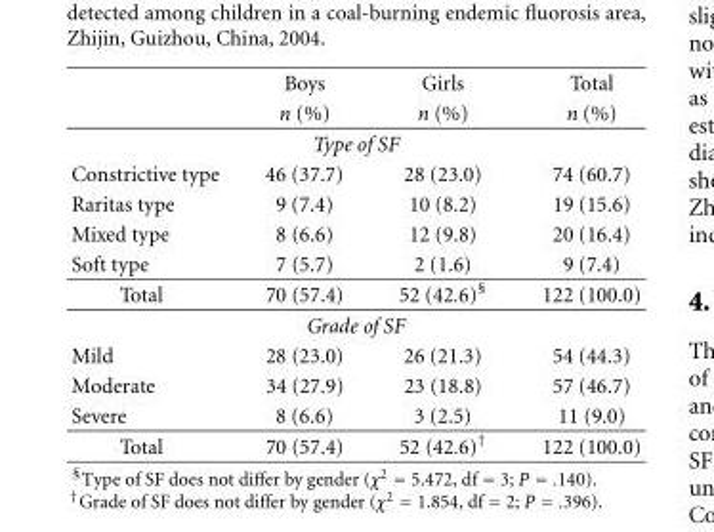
<table><thead><tr><td rowspan="2"></td><td rowspan="2">Boys n (%)</td><td rowspan="2">Girls n (%)</td><td rowspan="2">Total n (%)</td></tr><tr></tr></thead><tbody><tr><td colspan="4">Type of SF</td></tr><tr><td>Constrictive type</td><td>46 (37.7)</td><td>28 (23.0)</td><td>74 (60.7)</td></tr><tr><td>Raritas type</td><td>9 (7.4)</td><td>10 (8.2)</td><td>19 (15.6)</td></tr><tr><td>Mixed type</td><td>8 (6.6)</td><td>12 (9.8)</td><td>20 (16.4)</td></tr><tr><td>Soft type</td><td>7 (5.7)</td><td>2 (1.6)</td><td>9 (7.4)</td></tr><tr><td>Total</td><td>70 (57.4)</td><td>52 (42.6)<sup>§</sup></td><td>122 (100.0)</td></tr><tr><td colspan="4">Grade of SF</td></tr><tr><td>Mild</td><td>28 (23.0)</td><td>26 (21.3)</td><td>54 (44.3)</td></tr><tr><td>Moderate</td><td>34 (27.9)</td><td>23 (18.8)</td><td>57 (46.7)</td></tr><tr><td>Severe</td><td>8 (6.6)</td><td>3 (2.5)</td><td>11 (9.0)</td></tr><tr><td>Total</td><td>70 (57.4)</td><td>52 (42.6)†</td><td>122 (100.0)</td></tr></tbody></table>